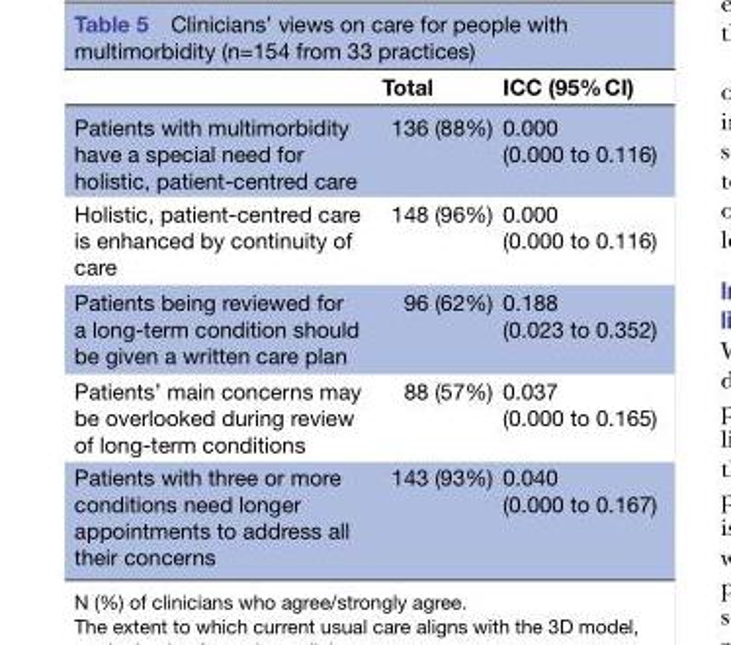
<table><thead><tr><td></td><td>Total</td><td>ICC (95% CI)</td></tr></thead><tbody><tr><td>Patients with multimorbidity have a special need for holistic, patient-centred care</td><td>136 (88%)</td><td>0.000 (0.000 to 0.116)</td></tr><tr><td>Holistic, patient-centred care is enhanced by continuity of care</td><td>148 (96%)</td><td>0.000 (0.000 to 0.116)</td></tr><tr><td>Patients being reviewed for a long-term condition should be given a written care plan</td><td>96 (62%)</td><td>0.188 (0.023 to 0.352)</td></tr><tr><td>Patients’ main concerns may be overlooked during review of long-term conditions</td><td>88 (57%)</td><td>0.037 (0.000 to 0.165)</td></tr><tr><td>Patients with three or more conditions need longer appointments to address all their concerns</td><td>143 (93%)</td><td>0.040 (0.000 to 0.167)</td></tr></tbody></table>